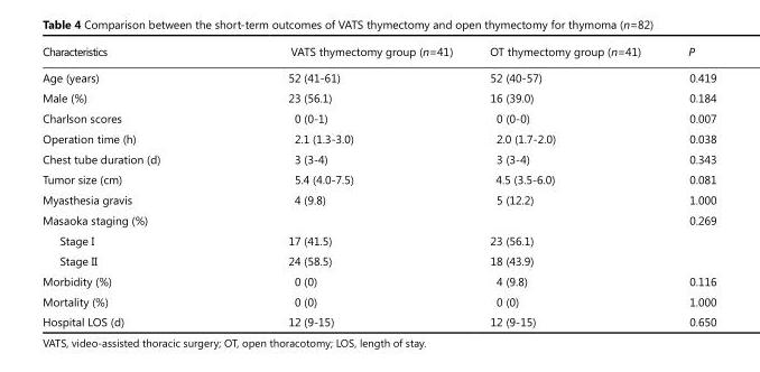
<table><thead><tr><td>Characteristics</td><td>VATS thymectomy group (n=41)</td><td>OT thymectomy group (n=41)</td><td>P</td></tr></thead><tbody><tr><td>Age (years)</td><td>52 (41-61)</td><td>52 (40-57)</td><td>0.419</td></tr><tr><td>Male (%)</td><td>23 (56.1)</td><td>16 (39.0)</td><td>0.184</td></tr><tr><td>Charlson scores</td><td>0 (0-1)</td><td>0 (0-0)</td><td>0.007</td></tr><tr><td>Operation time (h)</td><td>2.1 (1.3-3.0)</td><td>2.0 (1.7-2.0)</td><td>0.038</td></tr><tr><td>Chest tube duration (d)</td><td>3 (3-4)</td><td>3 (3-4)</td><td>0.343</td></tr><tr><td>Tumor size (cm)</td><td>5.4 (4.0-7.5)</td><td>4.5 (3.5-6.0)</td><td>0.081</td></tr><tr><td>Myasthesia gravis</td><td>4 (9.8)</td><td>5 (12.2)</td><td>1.000</td></tr><tr><td>Masaoka staging (%)</td><td></td><td></td><td>0.269</td></tr><tr><td>Stage I</td><td>17 (41.5)</td><td>23 (56.1)</td><td></td></tr><tr><td>Stage II</td><td>24 (58.5)</td><td>18 (43.9)</td><td></td></tr><tr><td>Morbidity (%)</td><td>0 (0)</td><td>4 (9.8)</td><td>0.116</td></tr><tr><td>Mortality (%)</td><td>0 (0)</td><td>0 (0)</td><td>1.000</td></tr><tr><td>Hospital LOS (d)</td><td>12 (9-15)</td><td>12 (9-15)</td><td>0.650</td></tr></tbody></table>